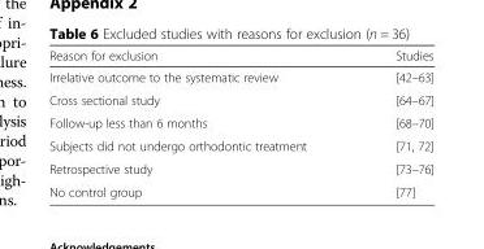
<table><thead><tr><td>Reason for exclusion</td><td>Studies</td></tr></thead><tbody><tr><td>Irrelative outcome to the systematic review</td><td>[42–63]</td></tr><tr><td>Cross sectional study</td><td>[64–67]</td></tr><tr><td>Follow-up less than 6 months</td><td>[68–70]</td></tr><tr><td>Subjects did not undergo orthodontic treatment</td><td>[71, 72]</td></tr><tr><td>Retrospective study</td><td>[73–76]</td></tr><tr><td>No control group</td><td>[77]</td></tr></tbody></table>